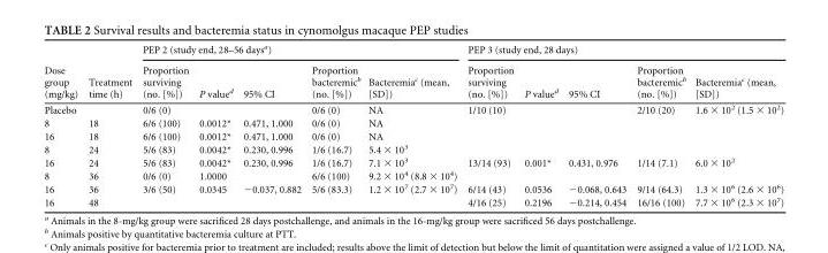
<table><thead><tr><td rowspan="2">Dose group (mg/kg)</td><td rowspan="2">Treatment time (h)</td><td colspan="5">PEP 2 (study end, 28–56 days<sup>a</sup>)</td><td colspan="5">PEP 3 (study end, 28 days)</td></tr><tr><td>Proportion surviving (no. [%])</td><td>P value<sup>d</sup></td><td>95% CI</td><td>Proportion bacteremic<sup>b</sup> (no. [%])</td><td>Bacteremia<sup>c</sup> (mean, [SD])</td><td>Proportion surviving (no. [%])</td><td>P value<sup>d</sup></td><td>95% CI</td><td>Proportion bacteremic<sup>b</sup> (no. [%])</td><td>Bacteremia<sup>c</sup> (mean, [SD])</td></tr></thead><tbody><tr><td>Placebo</td><td></td><td>0/6 (0)</td><td></td><td></td><td>0/6 (0)</td><td>NA</td><td>1/10 (10)</td><td></td><td></td><td>2/10 (20)</td><td>1.6 × 10<sup>2</sup> (1.5 × 10<sup>2</sup>)</td></tr><tr><td>8</td><td>18</td><td>6/6 (100)</td><td>0.0012*</td><td>0.471, 1.000</td><td>0/6 (0)</td><td>NA</td><td></td><td></td><td></td><td></td><td></td></tr><tr><td>16</td><td>18</td><td>6/6 (100)</td><td>0.0012*</td><td>0.471, 1.000</td><td>0/6 (0)</td><td>NA</td><td></td><td></td><td></td><td></td><td></td></tr><tr><td>8</td><td>24</td><td>5/6 (83)</td><td>0.0042*</td><td>0.230, 0.996</td><td>1/6 (16.7)</td><td>5.4 × 10<sup>3</sup></td><td></td><td></td><td></td><td></td><td></td></tr><tr><td>16</td><td>24</td><td>5/6 (83)</td><td>0.0042*</td><td>0.230, 0.996</td><td>1/6 (16.7)</td><td>7.1 × 10<sup>3</sup></td><td>13/14 (93)</td><td>0.001*</td><td>0.431, 0.976</td><td>1/14 (7.1)</td><td>6.0 × 10<sup>2</sup></td></tr><tr><td>8</td><td>36</td><td>0/6 (0)</td><td>1.0000</td><td></td><td>6/6 (100)</td><td>9.2 × 10<sup>4</sup> (8.8 × 10<sup>4</sup>)</td><td></td><td></td><td></td><td></td><td></td></tr><tr><td>16</td><td>36</td><td>3/6 (50)</td><td>0.0345</td><td>−0.037, 0.882</td><td>5/6 (83.3)</td><td>1.2 × 10<sup>7</sup> (2.7 × 10<sup>7</sup>)</td><td>6/14 (43)</td><td>0.0536</td><td>−0.068, 0.643</td><td>9/14 (64.3)</td><td>1.3 × 10<sup>6</sup> (2.6 × 10<sup>6</sup>)</td></tr><tr><td>16</td><td>48</td><td></td><td></td><td></td><td></td><td></td><td>4/16 (25)</td><td>0.2196</td><td>−0.214, 0.454</td><td>16/16 (100)</td><td>7.7 × 10<sup>6</sup> (2.3 × 10<sup>7</sup>)</td></tr></tbody></table>